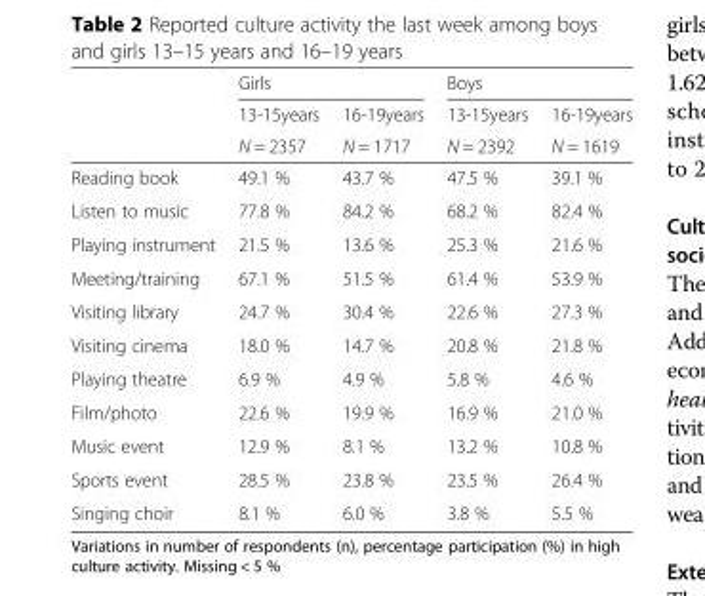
<table><thead><tr><td rowspan="3"></td><td colspan="2">Girls</td><td colspan="2">Boys</td></tr><tr><td rowspan="2">13-15years N = 2357</td><td rowspan="2">16-19years N = 1717</td><td rowspan="2">13-15years N = 2392</td><td rowspan="2">16-19years N = 1619</td></tr><tr></tr></thead><tbody><tr><td>Reading book</td><td>49.1 %</td><td>43.7 %</td><td>47.5 %</td><td>39.1 %</td></tr><tr><td>Listen to music</td><td>77.8 %</td><td>84.2 %</td><td>68.2 %</td><td>82.4 %</td></tr><tr><td>Playing instrument</td><td>21.5 %</td><td>13.6 %</td><td>25.3 %</td><td>21.6 %</td></tr><tr><td>Meeting/training</td><td>67.1 %</td><td>51.5 %</td><td>61.4 %</td><td>53.9 %</td></tr><tr><td>Visiting library</td><td>24.7 %</td><td>30.4 %</td><td>22.6 %</td><td>27.3 %</td></tr><tr><td>Visiting cinema</td><td>18.0 %</td><td>14.7 %</td><td>20.8 %</td><td>21.8 %</td></tr><tr><td>Playing theatre</td><td>6.9 %</td><td>4.9 %</td><td>5.8 %</td><td>4.6 %</td></tr><tr><td>Film/photo</td><td>22.6 %</td><td>19.9 %</td><td>16.9 %</td><td>21.0 %</td></tr><tr><td>Music event</td><td>12.9 %</td><td>8.1 %</td><td>13.2 %</td><td>10.8 %</td></tr><tr><td>Sports event</td><td>28.5 %</td><td>23.8 %</td><td>23.5 %</td><td>26.4 %</td></tr><tr><td>Singing choir</td><td>8.1 %</td><td>6.0 %</td><td>3.8 %</td><td>5.5 %</td></tr></tbody></table>